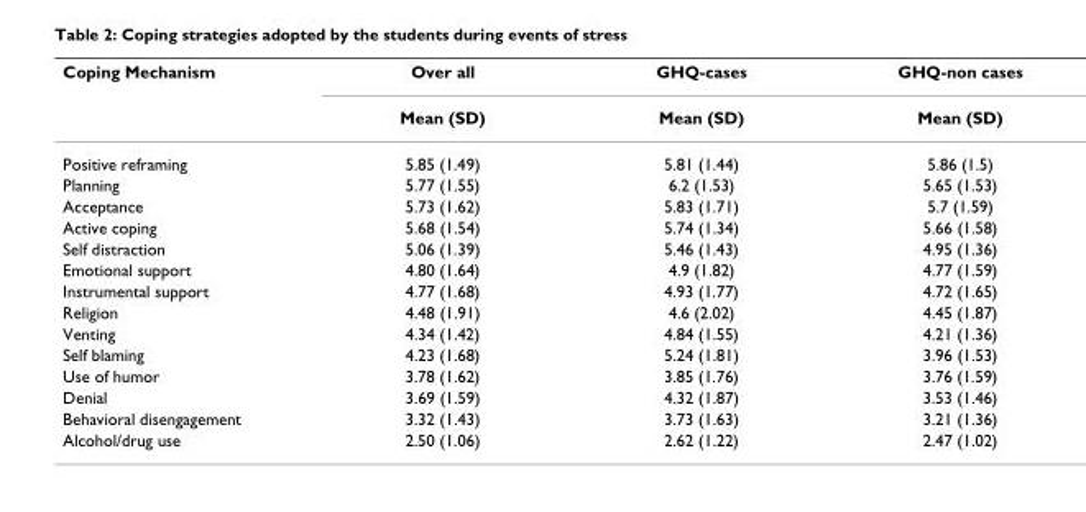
<table><thead><tr><td rowspan="2">Coping Mechanism</td><td rowspan="2">Over all Mean (SD)</td><td rowspan="2">GHQ-cases Mean (SD)</td><td rowspan="2">GHQ-non cases Mean (SD)</td></tr><tr></tr></thead><tbody><tr><td>Positive reframing</td><td>5.85 (1.49)</td><td>5.81 (1.44)</td><td>5.86 (1.5)</td></tr><tr><td>Planning</td><td>5.77 (1.55)</td><td>6.2 (1.53)</td><td>5.65 (1.53)</td></tr><tr><td>Acceptance</td><td>5.73 (1.62)</td><td>5.83 (1.71)</td><td>5.7 (1.59)</td></tr><tr><td>Active coping</td><td>5.68 (1.54)</td><td>5.74 (1.34)</td><td>5.66 (1.58)</td></tr><tr><td>Self distraction</td><td>5.06 (1.39)</td><td>5.46 (1.43)</td><td>4.95 (1.36)</td></tr><tr><td>Emotional support</td><td>4.80 (1.64)</td><td>4.9 (1.82)</td><td>4.77 (1.59)</td></tr><tr><td>Instrumental support</td><td>4.77 (1.68)</td><td>4.93 (1.77)</td><td>4.72 (1.65)</td></tr><tr><td>Religion</td><td>4.48 (1.91)</td><td>4.6 (2.02)</td><td>4.45 (1.87)</td></tr><tr><td>Venting</td><td>4.34 (1.42)</td><td>4.84 (1.55)</td><td>4.21 (1.36)</td></tr><tr><td>Self blaming</td><td>4.23 (1.68)</td><td>5.24 (1.81)</td><td>3.96 (1.53)</td></tr><tr><td>Use of humor</td><td>3.78 (1.62)</td><td>3.85 (1.76)</td><td>3.76 (1.59)</td></tr><tr><td>Denial</td><td>3.69 (1.59)</td><td>4.32 (1.87)</td><td>3.53 (1.46)</td></tr><tr><td>Behavioral disengagement</td><td>3.32 (1.43)</td><td>3.73 (1.63)</td><td>3.21 (1.36)</td></tr><tr><td>Alcohol/drug use</td><td>2.50 (1.06)</td><td>2.62 (1.22)</td><td>2.47 (1.02)</td></tr></tbody></table>